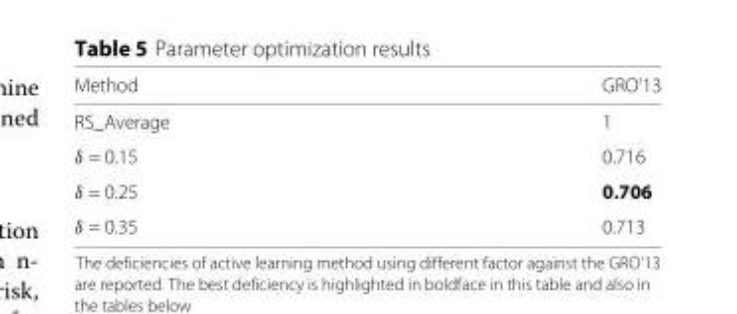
<table><thead><tr><td>Method</td><td>GRO’13</td></tr></thead><tbody><tr><td>RS_Average</td><td>1</td></tr><tr><td>δ = 0.15</td><td>0.716</td></tr><tr><td>δ = 0.25</td><td>0.706</td></tr><tr><td>δ = 0.35</td><td>0.713</td></tr></tbody></table>